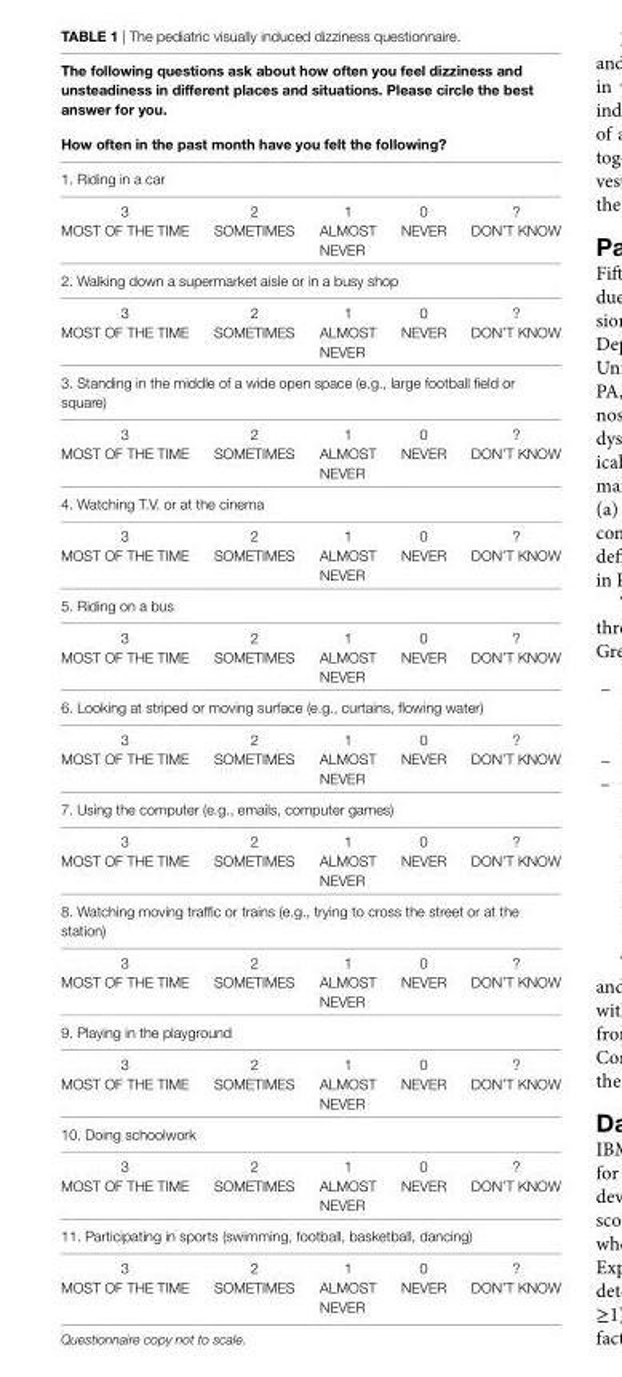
<table><thead><tr><td rowspan="3" colspan="5">The following questions ask about how often you feel dizziness and unsteadiness in different places and situations. Please circle the best answer for you. how often in the past month have you felt the following? 1. Riding in a car</td></tr><tr></tr><tr></tr><tr><td>3</td><td>2</td><td>1</td><td>0</td><td>?</td></tr></thead><tbody><tr><td>MOST OF THE TIME</td><td>SOMETIMES</td><td>ALMOST NEVER</td><td>NEVER</td><td>DON’T KNOW</td></tr><tr><td colspan="5">2. Walking down a supermarket aisle or in a busy shop</td></tr><tr><td>3</td><td>2</td><td>1</td><td>0</td><td>?</td></tr><tr><td>MOST OF THE TIME</td><td>SOMETIMES</td><td>ALMOST NEVER</td><td>NEVER</td><td>DON’T KNOW</td></tr><tr><td colspan="5">3. Standing in the middle of a wide open space (e.g., large football field or square)</td></tr><tr><td>3</td><td>2</td><td>1</td><td>0</td><td>?</td></tr><tr><td>MOST OF THE TIME</td><td>SOMETIMES</td><td>ALMOST NEVER</td><td>NEVER</td><td>DON’T KNOW</td></tr><tr><td colspan="5">4. Watching T.V. or at the cinema</td></tr><tr><td>3</td><td>2</td><td>1</td><td>0</td><td>?</td></tr><tr><td>MOST OF THE TIME</td><td>SOMETIMES</td><td>ALMOST NEVER</td><td>NEVER</td><td>DON’T KNOW</td></tr><tr><td colspan="5">5. Riding on a bus</td></tr><tr><td>3</td><td>2</td><td>1</td><td>0</td><td>?</td></tr><tr><td>MOST OF THE TIME</td><td>SOMETIMES</td><td>ALMOST NEVER</td><td>NEVER</td><td>DON’T KNOW</td></tr><tr><td colspan="5">6. Looking at striped or moving surface (e.g., curtains, flowing water)</td></tr><tr><td>3</td><td>2</td><td>1</td><td>0</td><td>?</td></tr><tr><td>MOST OF THE TIME</td><td>SOMETIMES</td><td>ALMOST NEVER</td><td>NEVER</td><td>DON’T KNOW</td></tr><tr><td colspan="5">7. Using the computer (e.g., emails, computer games)</td></tr><tr><td>3</td><td>2</td><td>1</td><td>0</td><td>?</td></tr><tr><td>MOST OF THE TIME</td><td>SOMETIMES</td><td>ALMOST NEVER</td><td>NEVER</td><td>DON’T KNOW</td></tr><tr><td colspan="5">8. Watching moving traffic or trains (e.g., trying to cross the street or at the station)</td></tr><tr><td>3</td><td>2</td><td>1</td><td>0</td><td>?</td></tr><tr><td>MOST OF THE TIME</td><td>SOMETIMES</td><td>ALMOST NEVER</td><td>NEVER</td><td>DON’T KNOW</td></tr><tr><td colspan="5">9. Playing in the playground</td></tr><tr><td>3</td><td>2</td><td>1</td><td>0</td><td>?</td></tr><tr><td>MOST OF THE TIME</td><td>SOMETIMES</td><td>ALMOST NEVER</td><td>NEVER</td><td>DON’T KNOW</td></tr><tr><td colspan="5">10. Doing schoolwork</td></tr><tr><td>3</td><td>2</td><td>1</td><td>0</td><td>?</td></tr><tr><td>MOST OF THE TIME</td><td>SOMETIMES</td><td>ALMOST NEVER</td><td>NEVER</td><td>DON’T KNOW</td></tr><tr><td colspan="5">11. Participating in sports (swimming, football, basketball, dancing)</td></tr><tr><td>3</td><td>2</td><td>1</td><td>0</td><td>?</td></tr><tr><td>MOST OF THE TIME</td><td>SOMETIMES</td><td>ALMOST NEVER</td><td>NEVER</td><td>DON’T KNOW</td></tr></tbody></table>